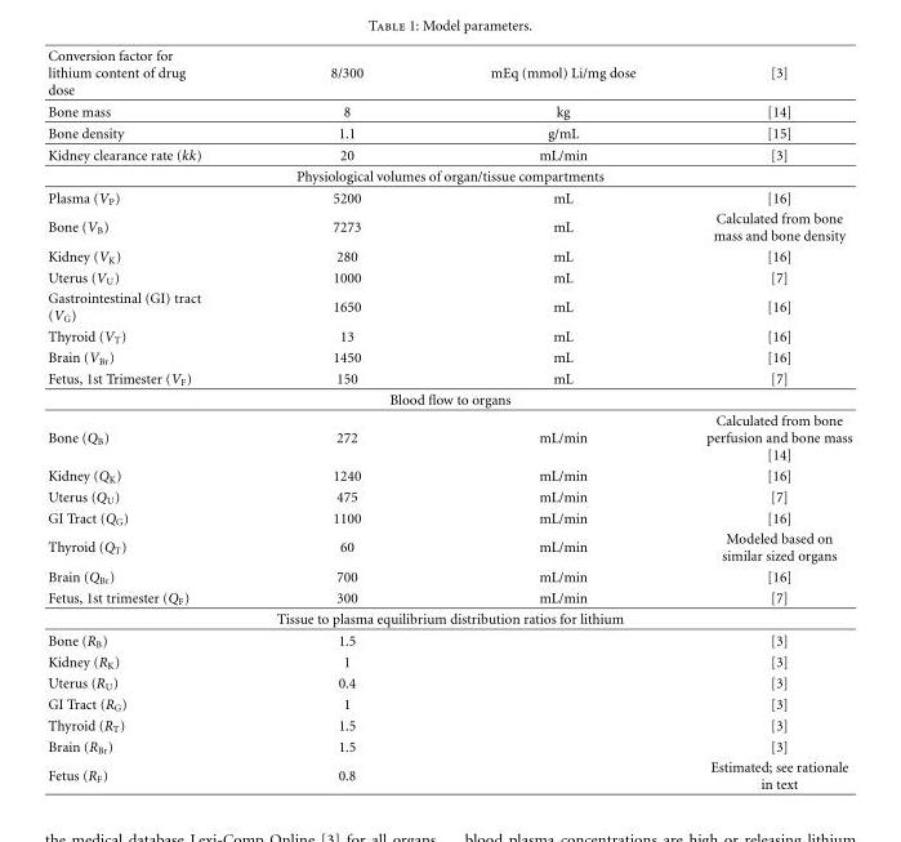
<table><tbody><tr><td>Conversion factor for lithium content of drug dose</td><td>8/300</td><td>mEq (mmol) Li/mg dose</td><td>[3]</td></tr><tr><td>Bone mass</td><td>8</td><td>kg</td><td>[14]</td></tr><tr><td>Bone density</td><td>1.1</td><td>g/mL</td><td>[15]</td></tr><tr><td>Kidney clearance rate (kk)</td><td>20</td><td>mL/min</td><td>[3]</td></tr><tr><td colspan="4">Physiological volumes of organ/tissue compartments</td></tr><tr><td>Plasma (V<sub>P</sub>)</td><td>5200</td><td>mL</td><td>[16]</td></tr><tr><td>Bone (V<sub>B</sub>)</td><td>7273</td><td>mL</td><td>Calculated from bone mass and bone density</td></tr><tr><td>Kidney (V<sub>K</sub>)</td><td>280</td><td>mL</td><td>[16]</td></tr><tr><td>Uterus (V<sub>U</sub>)</td><td>1000</td><td>mL</td><td>[7]</td></tr><tr><td>Gastrointestinal (GI) tract (V<sub>G</sub>)</td><td>1650</td><td>mL</td><td>[16]</td></tr><tr><td>Thyroid (V<sub>T</sub>)</td><td>13</td><td>mL</td><td>[16]</td></tr><tr><td>Brain (V<sub>Br</sub>)</td><td>1450</td><td>mL</td><td>[16]</td></tr><tr><td>Fetus, 1st Trimester (V<sub>F</sub>)</td><td>150</td><td>mL</td><td>[7]</td></tr><tr><td colspan="4">Blood flow to organs</td></tr><tr><td>Bone (Q<sub>B</sub>)</td><td>272</td><td>mL/min</td><td>Calculated from bone perfusion and bone mass [14]</td></tr><tr><td>Kidney (Q<sub>K</sub>)</td><td>1240</td><td>mL/min</td><td>[16]</td></tr><tr><td>Uterus (Q<sub>U</sub>)</td><td>475</td><td>mL/min</td><td>[7]</td></tr><tr><td>GI Tract (Q<sub>G</sub>)</td><td>1100</td><td>mL/min</td><td>[16]</td></tr><tr><td>Thyroid (Q<sub>T</sub>)</td><td>60</td><td>mL/min</td><td>Modeled based on similar sized organs</td></tr><tr><td>Brain (Q<sub>Br</sub>)</td><td>700</td><td>mL/min</td><td>[16]</td></tr><tr><td>Fetus, 1st trimester (Q<sub>F</sub>)</td><td>300</td><td>mL/min</td><td>[7]</td></tr><tr><td colspan="4">Tissue to plasma equilibrium distribution ratios for lithium</td></tr><tr><td>Bone (R<sub>B</sub>)</td><td>1.5</td><td></td><td>[3]</td></tr><tr><td>Kidney (R<sub>K</sub>)</td><td>1</td><td></td><td>[3]</td></tr><tr><td>Uterus (R<sub>U</sub>)</td><td>0.4</td><td></td><td>[3]</td></tr><tr><td>GI Tract (R<sub>G</sub>)</td><td>1</td><td></td><td>[3]</td></tr><tr><td>Thyroid (R<sub>T</sub>)</td><td>1.5</td><td></td><td>[3]</td></tr><tr><td>Brain (R<sub>Br</sub>)</td><td>1.5</td><td></td><td>[3]</td></tr><tr><td>Fetus (R<sub>F</sub>)</td><td>0.8</td><td></td><td>Estimated; see rationale in text</td></tr></tbody></table>